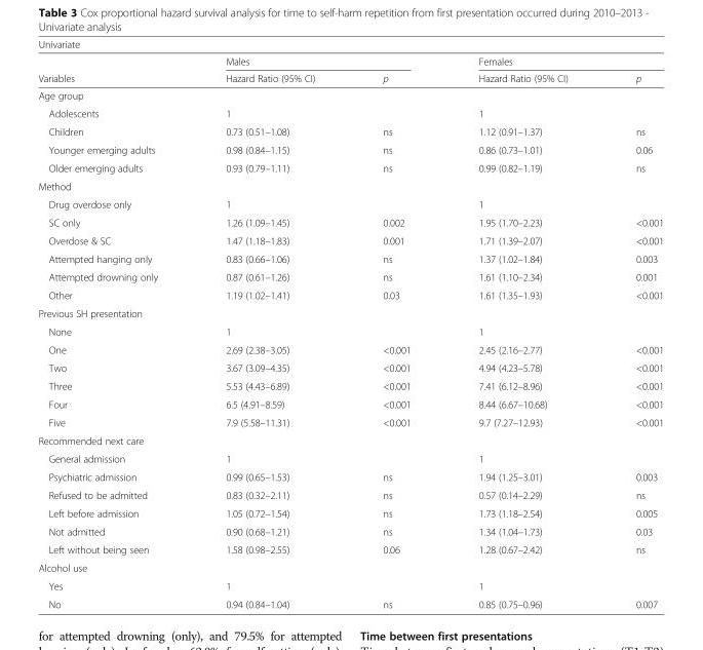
<table><thead><tr><td colspan="5">Univariate</td></tr><tr><td rowspan="2">Variables</td><td colspan="2">Males</td><td colspan="2">Females</td></tr><tr><td>Hazard Ratio (95% CI)</td><td>p</td><td>Hazard Ratio (95% CI)</td><td>p</td></tr></thead><tbody><tr><td colspan="5">Age group</td></tr><tr><td>Adolescents</td><td>1</td><td></td><td>1</td><td></td></tr><tr><td>Children</td><td>0.73 (0.51–1.08)</td><td>ns</td><td>1.12 (0.91–1.37)</td><td>ns</td></tr><tr><td>Younger emerging adults</td><td>0.98 (0.84–1.15)</td><td>ns</td><td>0.86 (0.73–1.01)</td><td>0.06</td></tr><tr><td>Older emerging adults</td><td>0.93 (0.79–1.11)</td><td>ns</td><td>0.99 (0.82–1.19)</td><td>ns</td></tr><tr><td colspan="5">Method</td></tr><tr><td>Drug overdose only</td><td>1</td><td></td><td>1</td><td></td></tr><tr><td>SC only</td><td>1.26 (1.09–1.45)</td><td>0.002</td><td>1.95 (1.70–2.23)</td><td>&lt;0.001</td></tr><tr><td>Overdose &amp; SC</td><td>1.47 (1.18–1.83)</td><td>0.001</td><td>1.71 (1.39–2.07)</td><td>&lt;0.001</td></tr><tr><td>Attempted hanging only</td><td>0.83 (0.66–1.06)</td><td>ns</td><td>1.37 (1.02–1.84)</td><td>0.003</td></tr><tr><td>Attempted drowning only</td><td>0.87 (0.61–1.26)</td><td>ns</td><td>1.61 (1.10–2.34)</td><td>0.001</td></tr><tr><td>Other</td><td>1.19 (1.02–1.41)</td><td>0.03</td><td>1.61 (1.35–1.93)</td><td>&lt;0.001</td></tr><tr><td colspan="5">Previous SH presentation</td></tr><tr><td>None</td><td>1</td><td></td><td>1</td><td></td></tr><tr><td>One</td><td>2.69 (2.38–3.05)</td><td>&lt;0.001</td><td>2.45 (2.16–2.77)</td><td>&lt;0.001</td></tr><tr><td>Two</td><td>3.67 (3.09–4.35)</td><td>&lt;0.001</td><td>4.94 (4.23–5.78)</td><td>&lt;0.001</td></tr><tr><td>Three</td><td>5.53 (4.43–6.89)</td><td>&lt;0.001</td><td>7.41 (6.12–8.96)</td><td>&lt;0.001</td></tr><tr><td>Four</td><td>6.5 (4.91–8.59)</td><td>&lt;0.001</td><td>8.44 (6.67–10.68)</td><td>&lt;0.001</td></tr><tr><td>Five</td><td>7.9 (5.58–11.31)</td><td>&lt;0.001</td><td>9.7 (7.27–12.93)</td><td>&lt;0.001</td></tr><tr><td colspan="5">Recommended next care</td></tr><tr><td>General admission</td><td>1</td><td></td><td>1</td><td></td></tr><tr><td>Psychiatric admission</td><td>0.99 (0.65–1.53)</td><td>ns</td><td>1.94 (1.25–3.01)</td><td>0.003</td></tr><tr><td>Refused to be admitted</td><td>0.83 (0.32–2.11)</td><td>ns</td><td>0.57 (0.14–2.29)</td><td>ns</td></tr><tr><td>Left before admission</td><td>1.05 (0.72–1.54)</td><td>ns</td><td>1.73 (1.18–2.54)</td><td>0.005</td></tr><tr><td>Not admitted</td><td>0.90 (0.68–1.21)</td><td>ns</td><td>1.34 (1.04–1.73)</td><td>0.03</td></tr><tr><td>Left without being seen</td><td>1.58 (0.98–2.55)</td><td>0.06</td><td>1.28 (0.67–2.42)</td><td>ns</td></tr><tr><td colspan="5">Alcohol use</td></tr><tr><td>Yes</td><td>1</td><td></td><td>1</td><td></td></tr><tr><td>No</td><td>0.94 (0.84–1.04)</td><td>ns</td><td>0.85 (0.75–0.96)</td><td>0.007</td></tr></tbody></table>